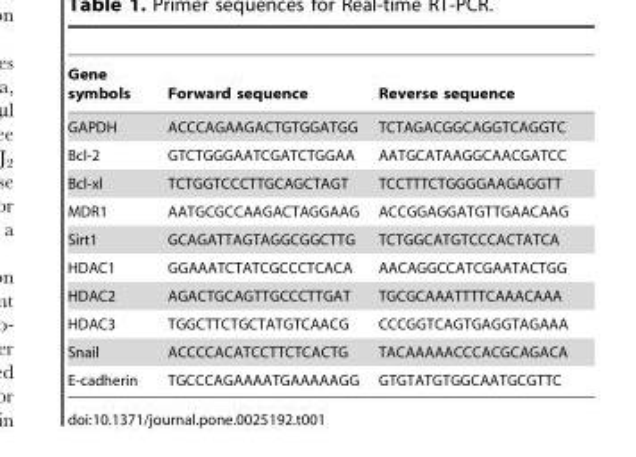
<table><thead><tr><td>Gene symbols</td><td>Forward sequence</td><td>Reverse sequence</td></tr></thead><tbody><tr><td>GAPDH</td><td>ACCCAGAAGACTGTGGATGG</td><td>TCTAGACGGCAGGTCAGGTC</td></tr><tr><td>Bcl-2</td><td>GTCTGGGAATCGATCTGGAA</td><td>AATGCATAAGGCAACGATCC</td></tr><tr><td>Bcl-xl</td><td>TCTGGTCCCTTGCAGCTAGT</td><td>TCCTTTCTGGGGAAGAGGTT</td></tr><tr><td>MDR1</td><td>AATGCGCCAAGACTAGGAAG</td><td>ACCGGAGGATGTTGAACAAG</td></tr><tr><td>Sirt1</td><td>GCAGATTAGTAGGCGGCTTG</td><td>TCTGGCATGTCCCACTATCA</td></tr><tr><td>HDAC1</td><td>GGAAATCTATCGCCCTCACA</td><td>AACAGGCCATCGAATACTGG</td></tr><tr><td>HDAC2</td><td>AGACTGCAGTTGCCCTTGAT</td><td>TGCGCAAATTTTCAAACAAA</td></tr><tr><td>HDAC3</td><td>TGGCTTCTGCTATGTCAACG</td><td>CCCGGTCAGTGAGGTAGAAA</td></tr><tr><td>Snail</td><td>ACCCCACATCCTTCTCACTG</td><td>TACAAAAACCCACGCAGACA</td></tr><tr><td>E-cadherin</td><td>TGCCCAGAAAATGAAAAAGG</td><td>GTGTATGTGGCAATGCGTTC</td></tr></tbody></table>